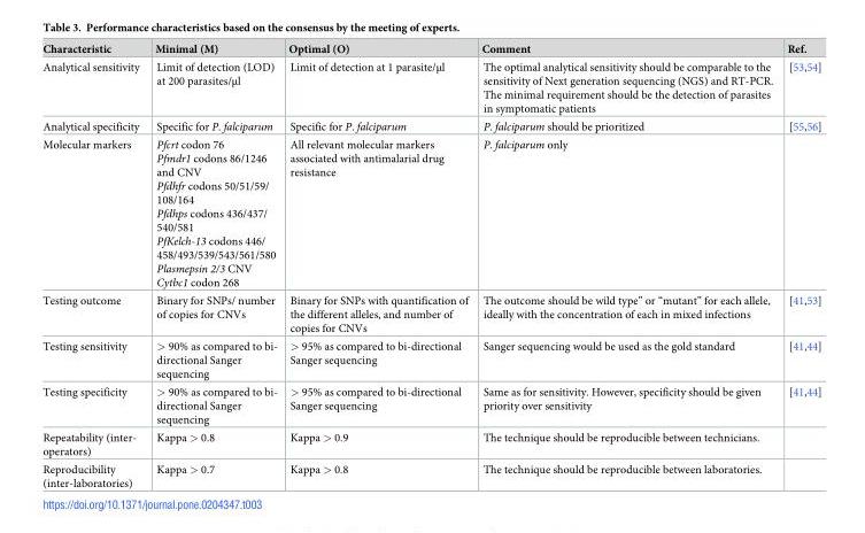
<table><thead><tr><td>Characteristic</td><td>Minimal (M)</td><td>Optimal (O)</td><td>Comment</td><td>Ref.</td></tr></thead><tbody><tr><td>Analytical sensitivity</td><td>Limit of detection (LOD) at 200 parasites/μl</td><td>Limit of detection at 1 parasite/μl</td><td>The optimal analytical sensitivity should be comparable to the sensitivity of Next generation sequencing (NGS) and RT-PCR. The minimal requirement should be the detection of parasites in symptomatic patients</td><td>[53,54]</td></tr><tr><td>Analytical specificity</td><td>Specific for P. falciparum</td><td>Specific for P. falciparum</td><td>P. falciparum should be prioritized</td><td>[55,56]</td></tr><tr><td>Molecular markers</td><td>Pfcrt codon 76 Pfmdr1 codons 86/1246 and CNV Pfdhfr codons 50/51/59/ 108/164 Pfdhps codons 436/437/ 540/581 PfKelch-13 codons 446/ 458/493/539/543/561/580 Plasmepsin 2/3 CNV Cytbc1 codon 268</td><td>All relevant molecular markers associated with antimalarial drug resistance</td><td>P. falciparum only</td><td></td></tr><tr><td>Testing outcome</td><td>Binary for SNPs/ number of copies for CNVs</td><td>Binary for SNPs with quantification of the different alleles, and number of copies for CNVs</td><td>The outcome should be wild type” or “mutant” for each allele, ideally with the concentration of each in mixed infections</td><td>[41,53]</td></tr><tr><td>Testing sensitivity</td><td>&gt; 90% as compared to bi- directional Sanger sequencing</td><td>&gt; 95% as compared to bi-directional Sanger sequencing</td><td>Sanger sequencing would be used as the gold standard</td><td>[41,44]</td></tr><tr><td>Testing specificity</td><td>&gt; 90% as compared to bi- directional Sanger sequencing</td><td>&gt; 95% as compared to bi-directional Sanger sequencing</td><td>Same as for sensitivity. However, specificity should be given priority over sensitivity</td><td>[41,44]</td></tr><tr><td>Repeatability (inter- operators)</td><td>Kappa &gt; 0.8</td><td>Kappa &gt; 0.9</td><td>The technique should be reproducible between technicians.</td><td></td></tr><tr><td>Reproducibility (inter-laboratories)</td><td>Kappa &gt; 0.7</td><td>Kappa &gt; 0.8</td><td>The technique should be reproducible between laboratories.</td><td></td></tr></tbody></table>